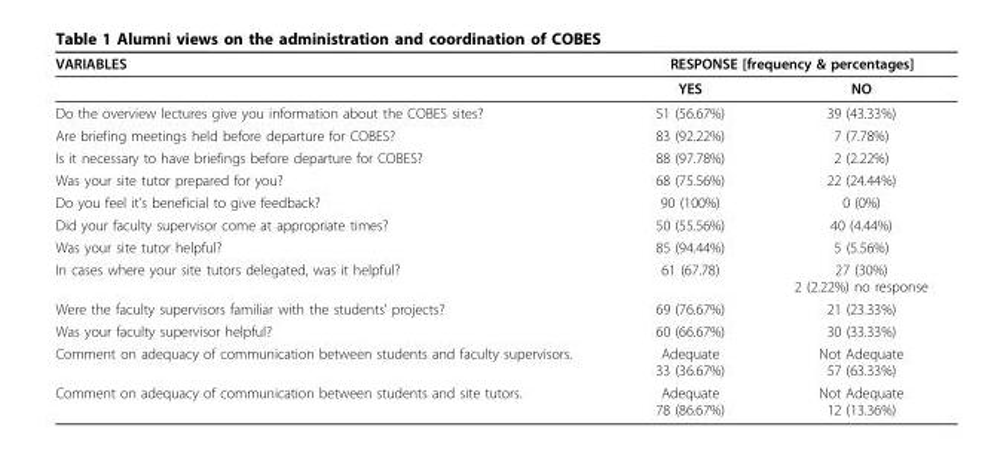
<table><thead><tr><td rowspan="2">VARIABLES</td><td colspan="2">RESPONSE [frequency &amp; percentages]</td></tr><tr><td>YES</td><td>NO</td></tr></thead><tbody><tr><td>Do the overview lectures give you information about the COBES sites?</td><td>51 (56.67%)</td><td>39 (43.33%)</td></tr><tr><td>Are briefing meetings held before departure for COBES?</td><td>83 (92.22%)</td><td>7 (7.78%)</td></tr><tr><td>Is it necessary to have briefings before departure for COBES?</td><td>88 (97.78%)</td><td>2 (2.22%)</td></tr><tr><td>Was your site tutor prepared for you?</td><td>68 (75.56%)</td><td>22 (24.44%)</td></tr><tr><td>Do you feel it’s beneficial to give feedback?</td><td>90 (100%)</td><td>0 (0%)</td></tr><tr><td>Did your faculty supervisor come at appropriate times?</td><td>50 (55.56%)</td><td>40 (4.44%)</td></tr><tr><td>Was your site tutor helpful?</td><td>85 (94.44%)</td><td>5 (5.56%)</td></tr><tr><td>In cases where your site tutors delegated, was it helpful?</td><td>61 (67.78)</td><td>27 (30%) 2 (2.22%) no response</td></tr><tr><td>Were the faculty supervisors familiar with the students’ projects?</td><td>69 (76.67%)</td><td>21 (23.33%)</td></tr><tr><td>Was your faculty supervisor helpful?</td><td>60 (66.67%)</td><td>30 (33.33%)</td></tr><tr><td>Comment on adequacy of communication between students and faculty supervisors.</td><td>Adequate 33 (36.67%)</td><td>Not Adequate 57 (63.33%)</td></tr><tr><td>Comment on adequacy of communication between students and site tutors.</td><td>Adequate 78 (86.67%)</td><td>Not Adequate 12 (13.36%)</td></tr></tbody></table>